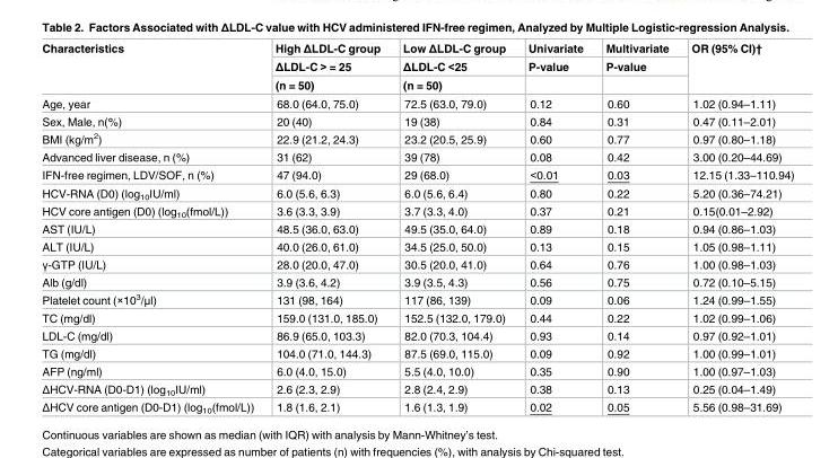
<table><thead><tr><td rowspan="3">Characteristics</td><td rowspan="3">High ΔLDL-C group ΔLDL-C &gt; = 25 (n = 50)</td><td rowspan="3">Low ΔLDL-C group ΔLDL-C &lt;25 (n = 50)</td><td rowspan="3">Univariate P-value</td><td rowspan="3">Multivariate P-value</td><td rowspan="3">OR (95% CI)†</td></tr><tr></tr><tr></tr></thead><tbody><tr><td>Age, year</td><td>68.0 (64.0, 75.0)</td><td>72.5 (63.0, 79.0)</td><td>0.12</td><td>0.60</td><td>1.02 (0.94–1.11)</td></tr><tr><td>Sex, Male, n(%)</td><td>20 (40)</td><td>19 (38)</td><td>0.84</td><td>0.31</td><td>0.47 (0.11–2.01)</td></tr><tr><td>BMI (kg/m<sup>2</sup>)</td><td>22.9 (21.2, 24.3)</td><td>23.2 (20.5, 25.9)</td><td>0.60</td><td>0.77</td><td>0.97 (0.80–1.18)</td></tr><tr><td>Advanced liver disease, n (%)</td><td>31 (62)</td><td>39 (78)</td><td>0.08</td><td>0.42</td><td>3.00 (0.20–44.69)</td></tr><tr><td>IFN-free regimen, LDV/SOF, n (%)</td><td>47 (94.0)</td><td>29 (68.0)</td><td>&lt;0.01</td><td>0.03</td><td>12.15 (1.33–110.94)</td></tr><tr><td>HCV-RNA (D0) (log<sub>10</sub>IU/ml)</td><td>6.0 (5.6, 6.3)</td><td>6.0 (5.6, 6.4)</td><td>0.80</td><td>0.22</td><td>5.20 (0.36–74.21)</td></tr><tr><td>HCV core antigen (D0) (log<sub>10</sub>(fmol/L))</td><td>3.6 (3.3, 3.9)</td><td>3.7 (3.3, 4.0)</td><td>0.37</td><td>0.21</td><td>0.15(0.01–2.92)</td></tr><tr><td>AST (IU/L)</td><td>48.5 (36.0, 63.0)</td><td>49.5 (35.0, 64.0)</td><td>0.89</td><td>0.18</td><td>0.94 (0.86–1.03)</td></tr><tr><td>ALT (IU/L)</td><td>40.0 (26.0, 61.0)</td><td>34.5 (25.0, 50.0)</td><td>0.13</td><td>0.15</td><td>1.05 (0.98–1.11)</td></tr><tr><td>γ-GTP (IU/L)</td><td>28.0 (20.0, 47.0)</td><td>30.5 (20.0, 41.0)</td><td>0.64</td><td>0.76</td><td>1.00 (0.98–1.03)</td></tr><tr><td>Alb (g/dl)</td><td>3.9 (3.6, 4.2)</td><td>3.9 (3.5, 4.3)</td><td>0.56</td><td>0.75</td><td>0.72 (0.10–5.15)</td></tr><tr><td>Platelet count (×10<sup>3</sup>/μl)</td><td>131 (98, 164)</td><td>117 (86, 139)</td><td>0.09</td><td>0.06</td><td>1.24 (0.99–1.55)</td></tr><tr><td>TC (mg/dl)</td><td>159.0 (131.0, 185.0)</td><td>152.5 (132.0, 179.0)</td><td>0.44</td><td>0.22</td><td>1.02 (0.99–1.06)</td></tr><tr><td>LDL-C (mg/dl)</td><td>86.9 (65.0, 103.3)</td><td>82.0 (70.3, 104.4)</td><td>0.93</td><td>0.14</td><td>0.97 (0.92–1.01)</td></tr><tr><td>TG (mg/dl)</td><td>104.0 (71.0, 144.3)</td><td>87.5 (69.0, 115.0)</td><td>0.09</td><td>0.92</td><td>1.00 (0.99–1.01)</td></tr><tr><td>AFP (ng/ml)</td><td>6.0 (4.0, 15.0)</td><td>5.5 (4.0, 10.0)</td><td>0.35</td><td>0.90</td><td>1.00 (0.97–1.03)</td></tr><tr><td>ΔHCV-RNA (D0-D1) (log<sub>10</sub>IU/ml)</td><td>2.6 (2.3, 2.9)</td><td>2.8 (2.4, 2.9)</td><td>0.38</td><td>0.13</td><td>0.25 (0.04–1.49)</td></tr><tr><td>ΔHCV core antigen (D0-D1) (log<sub>10</sub>(fmol/L))</td><td>1.8 (1.6, 2.1)</td><td>1.6 (1.3, 1.9)</td><td>0.02</td><td>0.05</td><td>5.56 (0.98–31.69)</td></tr></tbody></table>